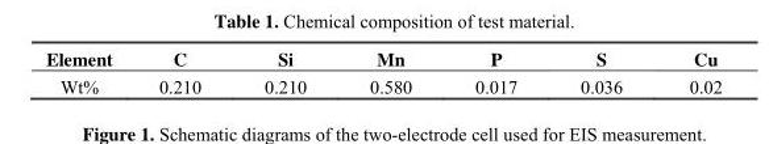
<table><thead><tr><td>Element</td><td>C</td><td>Si</td><td>Mn</td><td>P</td><td>S</td><td>Cu</td></tr></thead><tbody><tr><td>Wt%</td><td>0.210</td><td>0.210</td><td>0.580</td><td>0.017</td><td>0.036</td><td>0.02</td></tr></tbody></table>